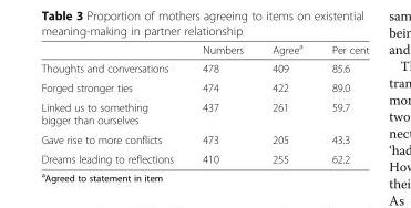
<table><thead><tr><td></td><td>Numbers</td><td>Agree<sup>a</sup></td><td>Per cent</td></tr></thead><tbody><tr><td>Thoughts and conversations</td><td>478</td><td>409</td><td>85.6</td></tr><tr><td>Forged stronger ties</td><td>474</td><td>422</td><td>89.0</td></tr><tr><td>Linked us to something bigger than ourselves</td><td>437</td><td>261</td><td>59.7</td></tr><tr><td>Gave rise to more conflicts</td><td>473</td><td>205</td><td>43.3</td></tr><tr><td>Dreams leading to reflections</td><td>410</td><td>255</td><td>62.2</td></tr></tbody></table>